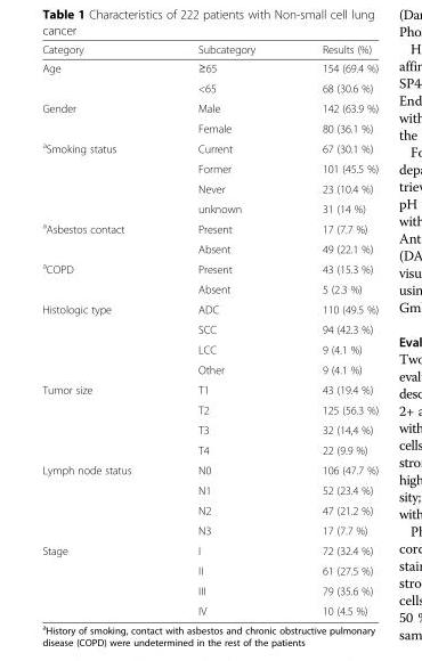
<table><thead><tr><td>Category</td><td>Subcategory</td><td>Results (%)</td></tr></thead><tbody><tr><td rowspan="2">Age</td><td>≥65</td><td>154 (69.4 %)</td></tr><tr><td>&lt;65</td><td>68 (30.6 %)</td></tr><tr><td rowspan="2">Gender</td><td>Male</td><td>142 (63.9 %)</td></tr><tr><td>Female</td><td>80 (36.1 %)</td></tr><tr><td rowspan="4"><sup>a</sup>Smoking status</td><td>Current</td><td>67 (30.1 %)</td></tr><tr><td>Former</td><td>101 (45.5 %)</td></tr><tr><td>Never</td><td>23 (10.4 %)</td></tr><tr><td>unknown</td><td>31 (14 %)</td></tr><tr><td rowspan="2"><sup>a</sup>Asbestos contact</td><td>Present</td><td>17 (7.7 %)</td></tr><tr><td>Absent</td><td>49 (22.1 %)</td></tr><tr><td rowspan="2"><sup>a</sup>COPD</td><td>Present</td><td>43 (15.3 %)</td></tr><tr><td>Absent</td><td>5 (2.3 %)</td></tr><tr><td rowspan="4">Histologic type</td><td>ADC</td><td>110 (49.5 %)</td></tr><tr><td>SCC</td><td>94 (42.3 %)</td></tr><tr><td>LCC</td><td>9 (4.1 %)</td></tr><tr><td>Other</td><td>9 (4.1 %)</td></tr><tr><td rowspan="4">Tumor size</td><td>T1</td><td>43 (19.4 %)</td></tr><tr><td>T2</td><td>125 (56.3 %)</td></tr><tr><td>T3</td><td>32 (14,4 %)</td></tr><tr><td>T4</td><td>22 (9.9 %)</td></tr><tr><td rowspan="4">Lymph node status</td><td>N0</td><td>106 (47.7 %)</td></tr><tr><td>N1</td><td>52 (23.4 %)</td></tr><tr><td>N2</td><td>47 (21.2 %)</td></tr><tr><td>N3</td><td>17 (7.7 %)</td></tr><tr><td rowspan="4">Stage</td><td>I</td><td>72 (32.4 %)</td></tr><tr><td>II</td><td>61 (27.5 %)</td></tr><tr><td>III</td><td>79 (35.6 %)</td></tr><tr><td>IV</td><td>10 (4.5 %)</td></tr></tbody></table>